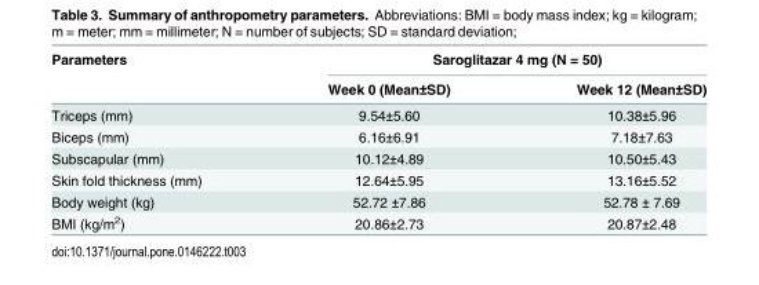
<table><thead><tr><td rowspan="2">Parameters</td><td colspan="2">Saroglitazar 4 mg (N = 50)</td></tr><tr><td>Week 0 (Mean±SD)</td><td>Week 12 (Mean±SD)</td></tr></thead><tbody><tr><td>Triceps (mm)</td><td>9.54±5.60</td><td>10.38±5.96</td></tr><tr><td>Biceps (mm)</td><td>6.16±6.91</td><td>7.18±7.63</td></tr><tr><td>Subscapular (mm)</td><td>10.12±4.89</td><td>10.50±5.43</td></tr><tr><td>Skin fold thickness (mm)</td><td>12.64±5.95</td><td>13.16±5.52</td></tr><tr><td>Body weight (kg)</td><td>52.72 ±7.86</td><td>52.78 ± 7.69</td></tr><tr><td>BMI (kg/m<sup>2</sup>)</td><td>20.86±2.73</td><td>20.87±2.48</td></tr></tbody></table>